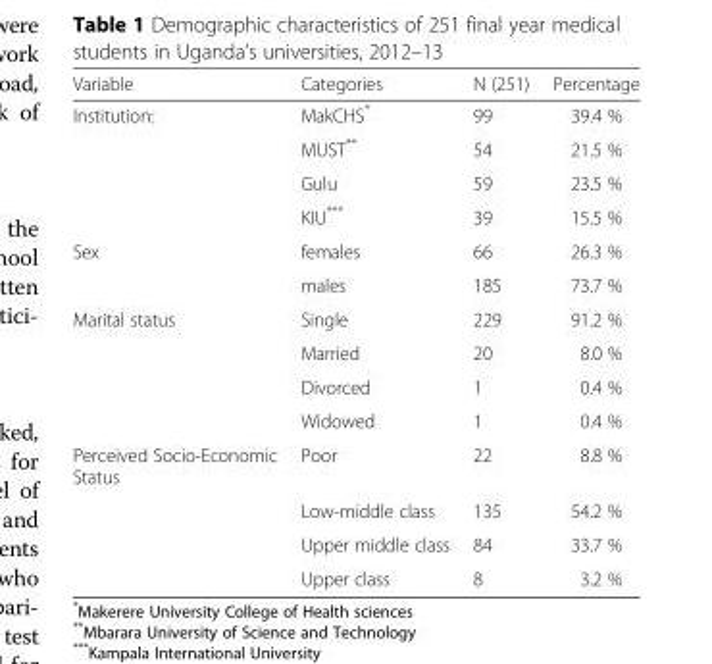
<table><thead><tr><td>Variable</td><td>Categories</td><td>N (251)</td><td>Percentage</td></tr></thead><tbody><tr><td rowspan="4">Institution:</td><td>MakCHS*</td><td>99</td><td>39.4 %</td></tr><tr><td>MUST**</td><td>54</td><td>21.5 %</td></tr><tr><td>Gulu</td><td>59</td><td>23.5 %</td></tr><tr><td>KIU***</td><td>39</td><td>15.5 %</td></tr><tr><td rowspan="2">Sex</td><td>females</td><td>66</td><td>26.3 %</td></tr><tr><td>males</td><td>185</td><td>73.7 %</td></tr><tr><td rowspan="4">Marital status</td><td>Single</td><td>229</td><td>91.2 %</td></tr><tr><td>Married</td><td>20</td><td>8.0 %</td></tr><tr><td>Divorced</td><td>1</td><td>0.4 %</td></tr><tr><td>Widowed</td><td>1</td><td>0.4 %</td></tr><tr><td rowspan="4">Perceived Socio-Economic Status</td><td>Poor</td><td>22</td><td>8.8 %</td></tr><tr><td>Low-middle class</td><td>135</td><td>54.2 %</td></tr><tr><td>Upper middle class</td><td>84</td><td>33.7 %</td></tr><tr><td>Upper class</td><td>8</td><td>3.2 %</td></tr></tbody></table>